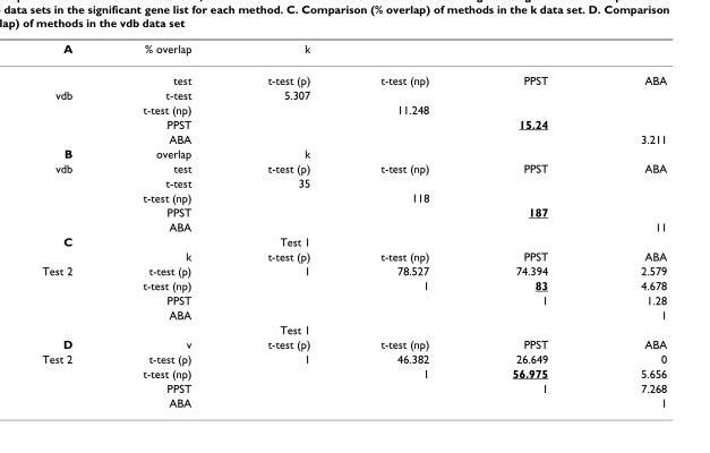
<table><thead><tr><td>A</td><td>% overlap</td><td>k</td><td></td><td></td><td></td></tr></thead><tbody><tr><td></td><td>test</td><td>t-test (p)</td><td>t-test (np)</td><td>PPST</td><td>ABA</td></tr><tr><td rowspan="4">vdb</td><td>t-test</td><td>5.307</td><td></td><td></td><td></td></tr><tr><td>t-test (np)</td><td></td><td>11.248</td><td></td><td></td></tr><tr><td>PPST</td><td></td><td></td><td>15.24</td><td></td></tr><tr><td>ABA</td><td></td><td></td><td></td><td>3.211</td></tr><tr><td>B</td><td>overlap</td><td>k</td><td></td><td></td><td></td></tr><tr><td rowspan="5">vdb</td><td>test</td><td>t-test (p)</td><td>t-test (np)</td><td>PPST</td><td>ABA</td></tr><tr><td>t-test</td><td>35</td><td></td><td></td><td></td></tr><tr><td>t-test (np)</td><td></td><td>118</td><td></td><td></td></tr><tr><td>PPST</td><td></td><td></td><td>187</td><td></td></tr><tr><td>ABA</td><td></td><td></td><td></td><td>11</td></tr><tr><td rowspan="2">C</td><td></td><td>Test 1</td><td></td><td></td><td></td></tr><tr><td>k</td><td>t-test (p)</td><td>t-test (np)</td><td>PPST</td><td>ABA</td></tr><tr><td rowspan="5">Test 2</td><td>t-test (p)</td><td>1</td><td>78.527</td><td>74.394</td><td>2.579</td></tr><tr><td>t-test (np)</td><td></td><td>1</td><td>83</td><td>4.678</td></tr><tr><td>PPST</td><td></td><td></td><td>1</td><td>1.28</td></tr><tr><td>ABA</td><td></td><td></td><td></td><td>1</td></tr><tr><td></td><td>Test 1</td><td></td><td></td><td></td></tr><tr><td>D</td><td>v</td><td>t-test (p)</td><td>t-test (np)</td><td>PPST</td><td>ABA</td></tr><tr><td rowspan="4">Test 2</td><td>t-test (p)</td><td>1</td><td>46.382</td><td>26.649</td><td>0</td></tr><tr><td>t-test (np)</td><td></td><td>1</td><td>56.975</td><td>5.656</td></tr><tr><td>PPST</td><td></td><td></td><td>1</td><td>7.268</td></tr><tr><td>ABA</td><td></td><td></td><td></td><td>1</td></tr></tbody></table>